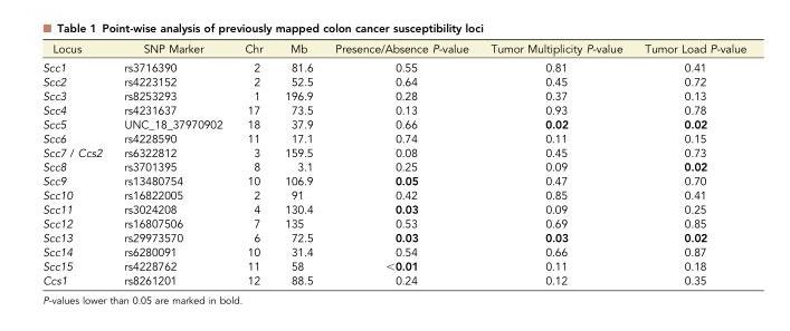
<table><thead><tr><td>Locus</td><td>SNP Marker</td><td>Chr</td><td>Mb</td><td>Presence/Absence P-value</td><td>Tumor Multiplicity P-value</td><td>Tumor Load P-value</td></tr></thead><tbody><tr><td>Scc1</td><td>rs3716390</td><td>2</td><td>81.6</td><td>0.55</td><td>0.81</td><td>0.41</td></tr><tr><td>Scc2</td><td>rs4223152</td><td>2</td><td>52.5</td><td>0.64</td><td>0.45</td><td>0.72</td></tr><tr><td>Scc3</td><td>rs8253293</td><td>1</td><td>196.9</td><td>0.28</td><td>0.37</td><td>0.13</td></tr><tr><td>Scc4</td><td>rs4231637</td><td>17</td><td>73.5</td><td>0.13</td><td>0.93</td><td>0.78</td></tr><tr><td>Scc5</td><td>UNC_18_37970902</td><td>18</td><td>37.9</td><td>0.66</td><td>0.02</td><td>0.02</td></tr><tr><td>Scc6</td><td>rs4228590</td><td>11</td><td>17.1</td><td>0.74</td><td>0.11</td><td>0.15</td></tr><tr><td>Scc7 / Ccs2</td><td>rs6322812</td><td>3</td><td>159.5</td><td>0.08</td><td>0.45</td><td>0.73</td></tr><tr><td>Scc8</td><td>rs3701395</td><td>8</td><td>3.1</td><td>0.25</td><td>0.09</td><td>0.02</td></tr><tr><td>Scc9</td><td>rs13480754</td><td>10</td><td>106.9</td><td>0.05</td><td>0.47</td><td>0.70</td></tr><tr><td>Scc10</td><td>rs16822005</td><td>2</td><td>91</td><td>0.42</td><td>0.85</td><td>0.41</td></tr><tr><td>Scc11</td><td>rs3024208</td><td>4</td><td>130.4</td><td>0.03</td><td>0.09</td><td>0.25</td></tr><tr><td>Scc12</td><td>rs16807506</td><td>7</td><td>135</td><td>0.53</td><td>0.69</td><td>0.85</td></tr><tr><td>Scc13</td><td>rs29973570</td><td>6</td><td>72.5</td><td>0.03</td><td>0.03</td><td>0.02</td></tr><tr><td>Scc14</td><td>rs6280091</td><td>10</td><td>31.4</td><td>0.54</td><td>0.66</td><td>0.87</td></tr><tr><td>Scc15</td><td>rs4228762</td><td>11</td><td>58</td><td>&lt;0.01</td><td>0.11</td><td>0.18</td></tr><tr><td>Ccs1</td><td>rs8261201</td><td>12</td><td>88.5</td><td>0.24</td><td>0.12</td><td>0.35</td></tr></tbody></table>